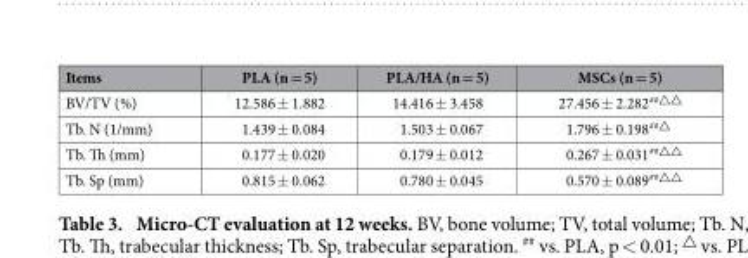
<table><thead><tr><td>Items</td><td>PLA (n = 5)</td><td>PLA/HA (n = 5)</td><td>MSCs (n = 5)</td></tr></thead><tbody><tr><td>BV/TV (%)</td><td>12.586 ± 1.882</td><td>14.416 ± 3.458</td><td>27.456 ± 2.282<sup>##△△</sup></td></tr><tr><td>Tb. N (1/mm)</td><td>1.439 ± 0.084</td><td>1.503 ± 0.067</td><td>1.796 ± 0.198<sup>##△</sup></td></tr><tr><td>Tb. Th (mm)</td><td>0.177 ± 0.020</td><td>0.179 ± 0.012</td><td>0.267 ± 0.031<sup>##△△</sup></td></tr><tr><td>Tb. Sp (mm)</td><td>0.815 ± 0.062</td><td>0.780 ± 0.045</td><td>0.570 ± 0.089<sup>##△△</sup></td></tr></tbody></table>